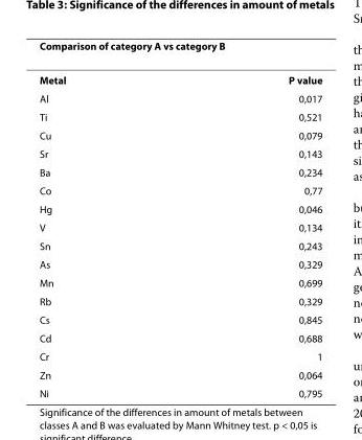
<table><thead><tr><td>Comparison of category A vs category B</td><td></td></tr></thead><tbody><tr><td>Metal</td><td>P value</td></tr><tr><td>Al</td><td>0,017</td></tr><tr><td>Ti</td><td>0,521</td></tr><tr><td>Cu</td><td>0,079</td></tr><tr><td>Sr</td><td>0,143</td></tr><tr><td>Ba</td><td>0,234</td></tr><tr><td>Co</td><td>0,77</td></tr><tr><td>Hg</td><td>0,046</td></tr><tr><td>V</td><td>0,134</td></tr><tr><td>Sn</td><td>0,243</td></tr><tr><td>As</td><td>0,329</td></tr><tr><td>Mn</td><td>0,699</td></tr><tr><td>Rb</td><td>0,329</td></tr><tr><td>Cs</td><td>0,845</td></tr><tr><td>Cd</td><td>0,688</td></tr><tr><td>Cr</td><td>1</td></tr><tr><td>Zn</td><td>0,064</td></tr><tr><td>Ni</td><td>0,795</td></tr></tbody></table>